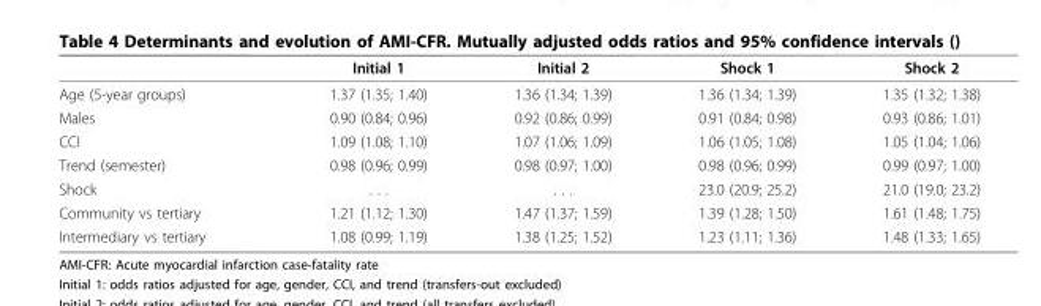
<table><thead><tr><td></td><td>Initial 1</td><td>Initial 2</td><td>Shock 1</td><td>Shock 2</td></tr></thead><tbody><tr><td>Age (5-year groups)</td><td>1.37 (1.35; 1.40)</td><td>1.36 (1.34; 1.39)</td><td>1.36 (1.34; 1.39)</td><td>1.35 (1.32; 1.38)</td></tr><tr><td>Males</td><td>0.90 (0.84; 0.96)</td><td>0.92 (0.86; 0.99)</td><td>0.91 (0.84; 0.98)</td><td>0.93 (0.86; 1.01)</td></tr><tr><td>CCI</td><td>1.09 (1.08; 1.10)</td><td>1.07 (1.06; 1.09)</td><td>1.06 (1.05; 1.08)</td><td>1.05 (1.04; 1.06)</td></tr><tr><td>Trend (semester)</td><td>0.98 (0.96; 0.99)</td><td>0.98 (0.97; 1.00)</td><td>0.98 (0.96; 0.99)</td><td>0.99 (0.97; 1.00)</td></tr><tr><td>Shock</td><td>. . .</td><td>. . .</td><td>23.0 (20.9; 25.2)</td><td>21.0 (19.0; 23.2)</td></tr><tr><td>Community vs tertiary</td><td>1.21 (1.12; 1.30)</td><td>1.47 (1.37; 1.59)</td><td>1.39 (1.28; 1.50)</td><td>1.61 (1.48; 1.75)</td></tr><tr><td>Intermediary vs tertiary</td><td>1.08 (0.99; 1.19)</td><td>1.38 (1.25; 1.52)</td><td>1.23 (1.11; 1.36)</td><td>1.48 (1.33; 1.65)</td></tr></tbody></table>